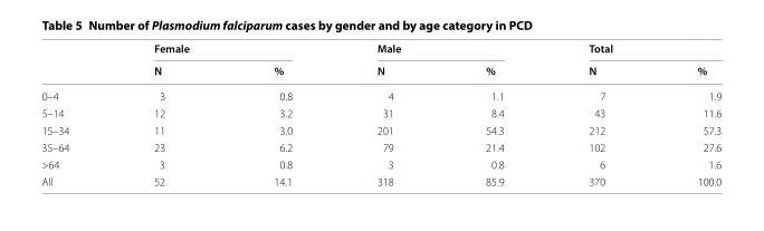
<table><thead><tr><td rowspan="2"></td><td colspan="2">Female</td><td colspan="2">Male</td><td colspan="2">Total</td></tr><tr><td>N</td><td>%</td><td>N</td><td>%</td><td>N</td><td>%</td></tr></thead><tbody><tr><td>0–4</td><td>3</td><td>0.8</td><td>4</td><td>1.1</td><td>7</td><td>1.9</td></tr><tr><td>5–14</td><td>12</td><td>3.2</td><td>31</td><td>8.4</td><td>43</td><td>11.6</td></tr><tr><td>15–34</td><td>11</td><td>3.0</td><td>201</td><td>54.3</td><td>212</td><td>57.3</td></tr><tr><td>35–64</td><td>23</td><td>6.2</td><td>79</td><td>21.4</td><td>102</td><td>27.6</td></tr><tr><td>&gt;64</td><td>3</td><td>0.8</td><td>3</td><td>0.8</td><td>6</td><td>1.6</td></tr><tr><td>All</td><td>52</td><td>14.1</td><td>318</td><td>85.9</td><td>370</td><td>100.0</td></tr></tbody></table>